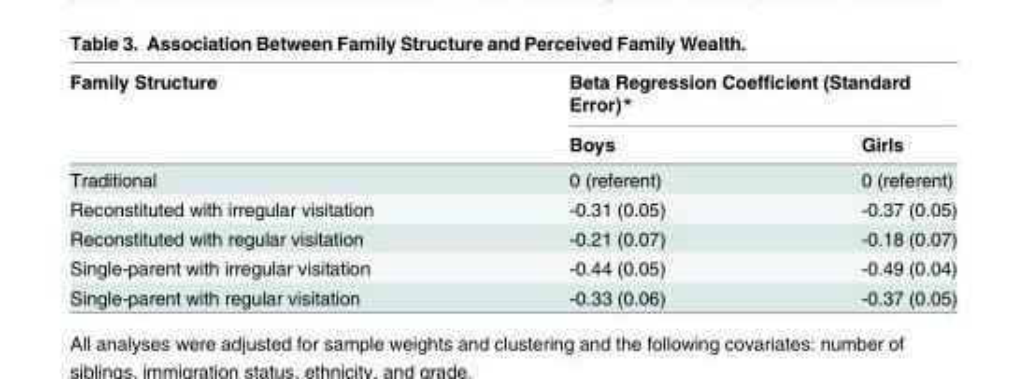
<table><thead><tr><td rowspan="2">Family Structure</td><td colspan="2">Beta Regression Coefficient (Standard Error)*</td></tr><tr><td>Boys</td><td>Girls</td></tr></thead><tbody><tr><td>Traditional</td><td>0 (referent)</td><td>0 (referent)</td></tr><tr><td>Reconstituted with irregular visitation</td><td>-0.31 (0.05)</td><td>-0.37 (0.05)</td></tr><tr><td>Reconstituted with regular visitation</td><td>-0.21 (0.07)</td><td>-0.18 (0.07)</td></tr><tr><td>Single-parent with irregular visitation</td><td>-0.44 (0.05)</td><td>-0.49 (0.04)</td></tr><tr><td>Single-parent with regular visitation</td><td>-0.33 (0.06)</td><td>-0.37 (0.05)</td></tr></tbody></table>